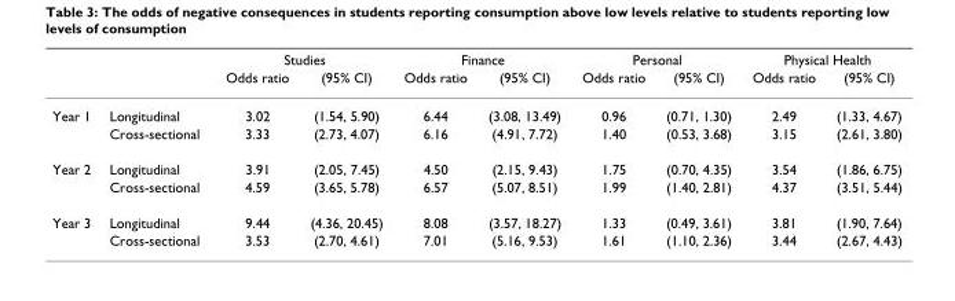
<table><thead><tr><td rowspan="2"></td><td rowspan="2"></td><td colspan="2">Studies</td><td colspan="2">Finance</td><td colspan="2">Personal</td><td colspan="2">Physical Health</td></tr><tr><td>Odds ratio</td><td>(95% CI)</td><td>Odds ratio</td><td>(95% CI)</td><td>Odds ratio</td><td>(95% CI)</td><td>Odds ratio</td><td>(95% CI)</td></tr></thead><tbody><tr><td rowspan="2">Year 1</td><td>Longitudinal</td><td>3.02</td><td>(1.54, 5.90)</td><td>6.44</td><td>(3.08, 13.49)</td><td>0.96</td><td>(0.71, 1.30)</td><td>2.49</td><td>(1.33, 4.67)</td></tr><tr><td>Cross-sectional</td><td>3.33</td><td>(2.73, 4.07)</td><td>6.16</td><td>(4.91, 7.72)</td><td>1.40</td><td>(0.53, 3.68)</td><td>3.15</td><td>(2.61, 3.80)</td></tr><tr><td rowspan="2">Year 2</td><td>Longitudinal</td><td>3.91</td><td>(2.05, 7.45)</td><td>4.50</td><td>(2.15, 9.43)</td><td>1.75</td><td>(0.70, 4.35)</td><td>3.54</td><td>(1.86, 6.75)</td></tr><tr><td>Cross-sectional</td><td>4.59</td><td>(3.65, 5.78)</td><td>6.57</td><td>(5.07, 8.51)</td><td>1.99</td><td>(1.40, 2.81)</td><td>4.37</td><td>(3.51, 5.44)</td></tr><tr><td rowspan="2">Year 3</td><td>Longitudinal</td><td>9.44</td><td>(4.36, 20.45)</td><td>8.08</td><td>(3.57, 18.27)</td><td>1.33</td><td>(0.49, 3.61)</td><td>3.81</td><td>(1.90, 7.64)</td></tr><tr><td>Cross-sectional</td><td>3.53</td><td>(2.70, 4.61)</td><td>7.01</td><td>(5.16, 9.53)</td><td>1.61</td><td>(1.10, 2.36)</td><td>3.44</td><td>(2.67, 4.43)</td></tr></tbody></table>